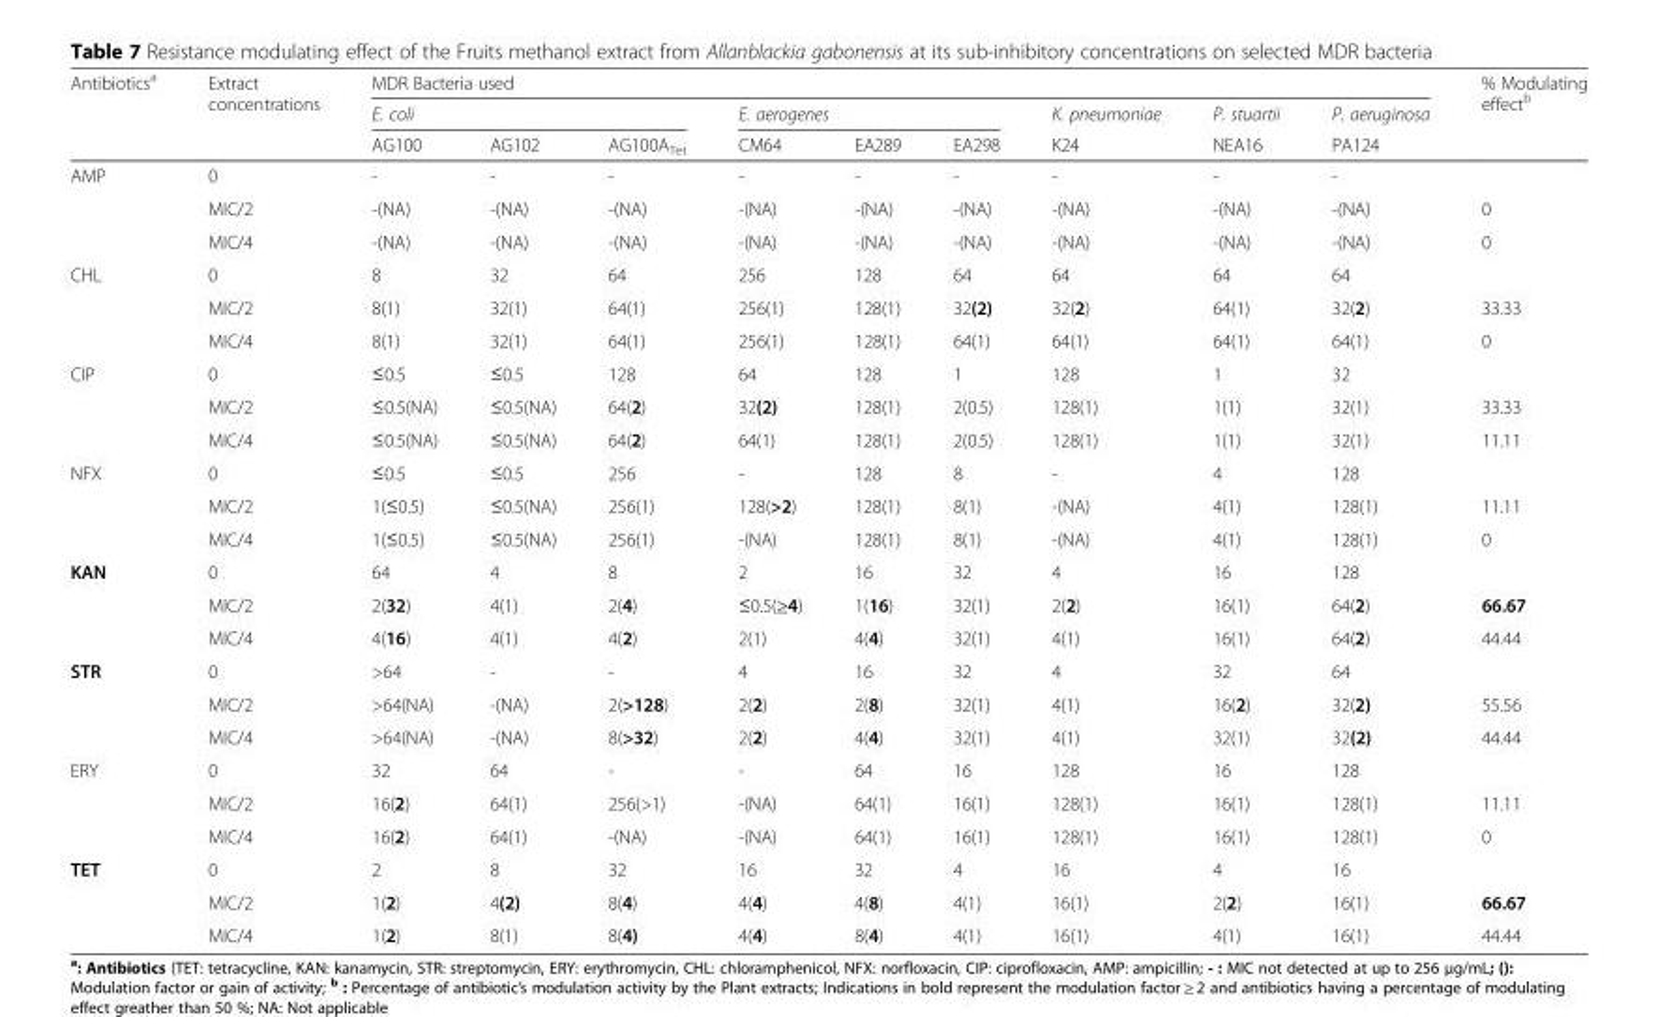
<table><thead><tr><td rowspan="3">Antibiotics<sup>a</sup></td><td rowspan="3">Extract concentrations</td><td colspan="9">MDR Bacteria used</td><td rowspan="3">% Modulating effect<sup>b</sup></td></tr><tr><td colspan="3">E. coli</td><td colspan="3">E. aerogenes</td><td rowspan="2">K. pneumoniae K24</td><td rowspan="2">P. stuartii NEA16</td><td rowspan="2">P. aeruginosa PA124</td></tr><tr><td>AG100</td><td>AG102</td><td>AG100A<sub>Tet</sub></td><td>CM64</td><td>EA289</td><td>EA298</td></tr></thead><tbody><tr><td rowspan="3">AMP</td><td>0</td><td>-</td><td>-</td><td>-</td><td>-</td><td>-</td><td>-</td><td>-</td><td>-</td><td>-</td><td></td></tr><tr><td>MIC/2</td><td>-(NA)</td><td>-(NA)</td><td>-(NA)</td><td>-(NA)</td><td>-(NA)</td><td>-(NA)</td><td>-(NA)</td><td>-(NA)</td><td>-(NA)</td><td>0</td></tr><tr><td>MIC/4</td><td>-(NA)</td><td>-(NA)</td><td>-(NA)</td><td>-(NA)</td><td>-(NA)</td><td>-(NA)</td><td>-(NA)</td><td>-(NA)</td><td>-(NA)</td><td>0</td></tr><tr><td rowspan="3">CHL</td><td>0</td><td>8</td><td>32</td><td>64</td><td>256</td><td>128</td><td>64</td><td>64</td><td>64</td><td>64</td><td></td></tr><tr><td>MIC/2</td><td>8(1)</td><td>32(1)</td><td>64(1)</td><td>256(1)</td><td>128(1)</td><td>32(2)</td><td>32(2)</td><td>64(1)</td><td>32(2)</td><td>33.33</td></tr><tr><td>MIC/4</td><td>8(1)</td><td>32(1)</td><td>64(1)</td><td>256(1)</td><td>128(1)</td><td>64(1)</td><td>64(1)</td><td>64(1)</td><td>64(1)</td><td>0</td></tr><tr><td rowspan="3">CIP</td><td>0</td><td>≤0.5</td><td>≤0.5</td><td>128</td><td>64</td><td>128</td><td>1</td><td>128</td><td>1</td><td>32</td><td></td></tr><tr><td>MIC/2</td><td>≤0.5(NA)</td><td>≤0.5(NA)</td><td>64(2)</td><td>32(2)</td><td>128(1)</td><td>2(0.5)</td><td>128(1)</td><td>1(1)</td><td>32(1)</td><td>33.33</td></tr><tr><td>MIC/4</td><td>≤0.5(NA)</td><td>≤0.5(NA)</td><td>64(2)</td><td>64(1)</td><td>128(1)</td><td>2(0.5)</td><td>128(1)</td><td>1(1)</td><td>32(1)</td><td>11.11</td></tr><tr><td rowspan="3">NFX</td><td>0</td><td>≤0.5</td><td>≤0.5</td><td>256</td><td>-</td><td>128</td><td>8</td><td>-</td><td>4</td><td>128</td><td></td></tr><tr><td>MIC/2</td><td>1(≤0.5)</td><td>≤0.5(NA)</td><td>256(1)</td><td>128(&gt;2)</td><td>128(1)</td><td>8(1)</td><td>-(NA)</td><td>4(1)</td><td>128(1)</td><td>11.11</td></tr><tr><td>MIC/4</td><td>1(≤0.5)</td><td>≤0.5(NA)</td><td>256(1)</td><td>-(NA)</td><td>128(1)</td><td>8(1)</td><td>-(NA)</td><td>4(1)</td><td>128(1)</td><td>0</td></tr><tr><td rowspan="3">KAN</td><td>0</td><td>64</td><td>4</td><td>8</td><td>2</td><td>16</td><td>32</td><td>4</td><td>16</td><td>128</td><td></td></tr><tr><td>MIC/2</td><td>2(32)</td><td>4(1)</td><td>2(4)</td><td>≤0.5(≥4)</td><td>1(16)</td><td>32(1)</td><td>2(2)</td><td>16(1)</td><td>64(2)</td><td>66.67</td></tr><tr><td>MIC/4</td><td>4(16)</td><td>4(1)</td><td>4(2)</td><td>2(1)</td><td>4(4)</td><td>32(1)</td><td>4(1)</td><td>16(1)</td><td>64(2)</td><td>44.44</td></tr><tr><td rowspan="3">STR</td><td>0</td><td>&gt;64</td><td>-</td><td>-</td><td>4</td><td>16</td><td>32</td><td>4</td><td>32</td><td>64</td><td></td></tr><tr><td>MIC/2</td><td>&gt;64(NA)</td><td>-(NA)</td><td>2(&gt;128)</td><td>2(2)</td><td>2(8)</td><td>32(1)</td><td>4(1)</td><td>16(2)</td><td>32(2)</td><td>55.56</td></tr><tr><td>MIC/4</td><td>&gt;64(NA)</td><td>-(NA)</td><td>8(&gt;32)</td><td>2(2)</td><td>4(4)</td><td>32(1)</td><td>4(1)</td><td>32(1)</td><td>32(2)</td><td>44.44</td></tr><tr><td rowspan="3">ERY</td><td>0</td><td>32</td><td>64</td><td>-</td><td>-</td><td>64</td><td>16</td><td>128</td><td>16</td><td>128</td><td></td></tr><tr><td>MIC/2</td><td>16(2)</td><td>64(1)</td><td>256(&gt;1)</td><td>-(NA)</td><td>64(1)</td><td>16(1)</td><td>128(1)</td><td>16(1)</td><td>128(1)</td><td>11.11</td></tr><tr><td>MIC/4</td><td>16(2)</td><td>64(1)</td><td>-(NA)</td><td>-(NA)</td><td>64(1)</td><td>16(1)</td><td>128(1)</td><td>16(1)</td><td>128(1)</td><td>0</td></tr><tr><td rowspan="3">TET</td><td>0</td><td>2</td><td>8</td><td>32</td><td>16</td><td>32</td><td>4</td><td>16</td><td>4</td><td>16</td><td></td></tr><tr><td>MIC/2</td><td>1(2)</td><td>4(2)</td><td>8(4)</td><td>4(4)</td><td>4(8)</td><td>4(1)</td><td>16(1)</td><td>2(2)</td><td>16(1)</td><td>66.67</td></tr><tr><td>MIC/4</td><td>1(2)</td><td>8(1)</td><td>8(4)</td><td>4(4)</td><td>8(4)</td><td>4(1)</td><td>16(1)</td><td>4(1)</td><td>16(1)</td><td>44.44</td></tr></tbody></table>